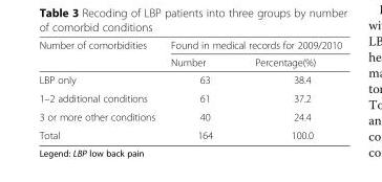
<table><thead><tr><td rowspan="2">Number of comorbidities</td><td colspan="2">Found in medical records for 2009/2010</td></tr><tr><td>Number</td><td>Percentage(%)</td></tr></thead><tbody><tr><td>LBP only</td><td>63</td><td>38.4</td></tr><tr><td>1–2 additional conditions</td><td>61</td><td>37.2</td></tr><tr><td>3 or more other conditions</td><td>40</td><td>24.4</td></tr><tr><td>Total</td><td>164</td><td>100.0</td></tr></tbody></table>